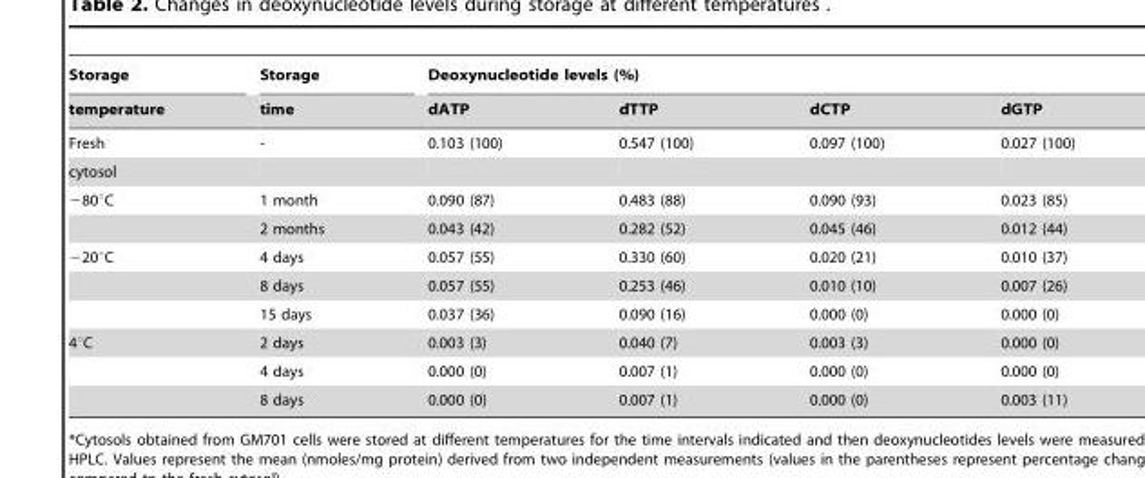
<table><thead><tr><td rowspan="2">Storage temperature</td><td rowspan="2">Storage time</td><td colspan="4">Deoxynucleotide levels (%)</td></tr><tr><td>dATP</td><td>dTTP</td><td>dCTP</td><td>dGTP</td></tr></thead><tbody><tr><td>Fresh</td><td>-</td><td>0.103 (100)</td><td>0.547 (100)</td><td>0.097 (100)</td><td>0.027 (100)</td></tr><tr><td colspan="6">cytosol</td></tr><tr><td rowspan="2">−80°C</td><td>1 month</td><td>0.090 (87)</td><td>0.483 (88)</td><td>0.090 (93)</td><td>0.023 (85)</td></tr><tr><td>2 months</td><td>0.043 (42)</td><td>0.282 (52)</td><td>0.045 (46)</td><td>0.012 (44)</td></tr><tr><td rowspan="3">−20°C</td><td>4 days</td><td>0.057 (55)</td><td>0.330 (60)</td><td>0.020 (21)</td><td>0.010 (37)</td></tr><tr><td>8 days</td><td>0.057 (55)</td><td>0.253 (46)</td><td>0.010 (10)</td><td>0.007 (26)</td></tr><tr><td>15 days</td><td>0.037 (36)</td><td>0.090 (16)</td><td>0.000 (0)</td><td>0.000 (0)</td></tr><tr><td rowspan="3">4°C</td><td>2 days</td><td>0.003 (3)</td><td>0.040 (7)</td><td>0.003 (3)</td><td>0.000 (0)</td></tr><tr><td>4 days</td><td>0.000 (0)</td><td>0.007 (1)</td><td>0.000 (0)</td><td>0.000 (0)</td></tr><tr><td>8 days</td><td>0.000 (0)</td><td>0.007 (1)</td><td>0.000 (0)</td><td>0.003 (11)</td></tr></tbody></table>